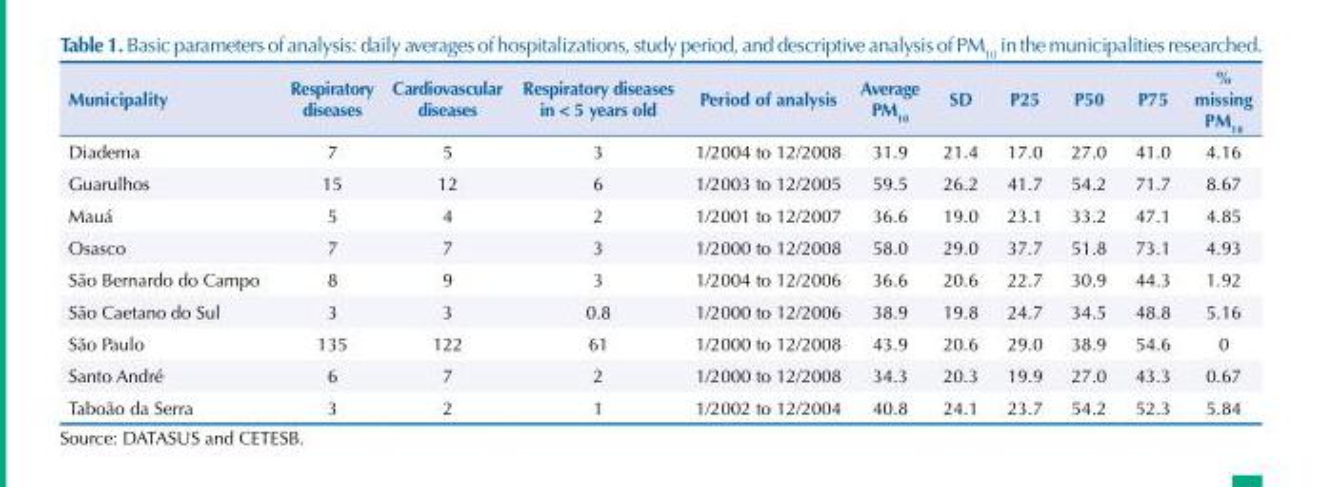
<table><thead><tr><td>Municipality</td><td>Respiratory diseases</td><td>Cardiovascular diseases</td><td>Respiratory diseases in &lt; 5 years old</td><td>Period of analysis</td><td>Average PM<sub>10</sub></td><td>SD</td><td>P25</td><td>P50</td><td>P75</td><td>% missing PM<sub>10</sub></td></tr></thead><tbody><tr><td>Diadema</td><td>7</td><td>5</td><td>3</td><td>1/2004 to 12/2008</td><td>31.9</td><td>21.4</td><td>17.0</td><td>27.0</td><td>41.0</td><td>4.16</td></tr><tr><td>Guarulhos</td><td>15</td><td>12</td><td>6</td><td>1/2003 to 12/2005</td><td>59.5</td><td>26.2</td><td>41.7</td><td>54.2</td><td>71.7</td><td>8.67</td></tr><tr><td>Mauá</td><td>5</td><td>4</td><td>2</td><td>1/2001 to 12/2007</td><td>36.6</td><td>19.0</td><td>23.1</td><td>33.2</td><td>47.1</td><td>4.85</td></tr><tr><td>Osasco</td><td>7</td><td>7</td><td>3</td><td>1/2000 to 12/2008</td><td>58.0</td><td>29.0</td><td>37.7</td><td>51.8</td><td>73.1</td><td>4.93</td></tr><tr><td>São Bernardo do Campo</td><td>8</td><td>9</td><td>3</td><td>1/2004 to 12/2006</td><td>36.6</td><td>20.6</td><td>22.7</td><td>30.9</td><td>44.3</td><td>1.92</td></tr><tr><td>São Caetano do Sul</td><td>3</td><td>3</td><td>0.8</td><td>1/2000 to 12/2006</td><td>38.9</td><td>19.8</td><td>24.7</td><td>34.5</td><td>48.8</td><td>5.16</td></tr><tr><td>São Paulo</td><td>135</td><td>122</td><td>61</td><td>1/2000 to 12/2008</td><td>43.9</td><td>20.6</td><td>29.0</td><td>38.9</td><td>54.6</td><td>0</td></tr><tr><td>Santo André</td><td>6</td><td>7</td><td>2</td><td>1/2000 to 12/2008</td><td>34.3</td><td>20.3</td><td>19.9</td><td>27.0</td><td>43.3</td><td>0.67</td></tr><tr><td>Taboão da Serra</td><td>3</td><td>2</td><td>1</td><td>1/2002 to 12/2004</td><td>40.8</td><td>24.1</td><td>23.7</td><td>54.2</td><td>52.3</td><td>5.84</td></tr></tbody></table>